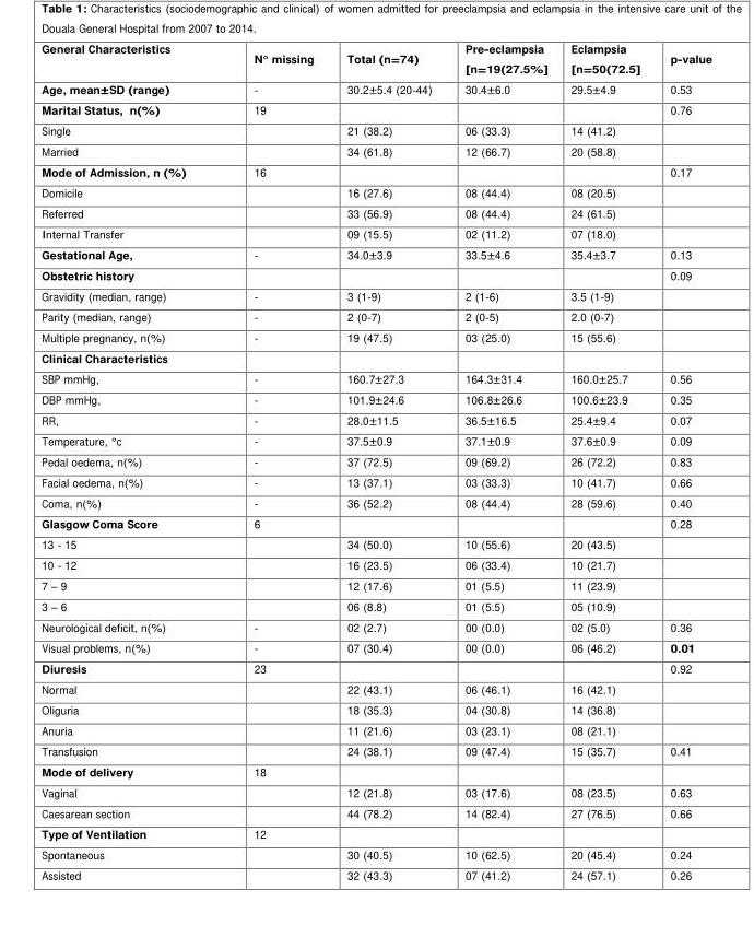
<table><thead><tr><td>General Characteristics</td><td>N° missing</td><td>Total (n=74)</td><td>Pre-eclampsia [n=19(27.5%]</td><td>Eclampsia [n=50(72.5]</td><td>p-value</td></tr></thead><tbody><tr><td>Age, mean±SD (range)</td><td>-</td><td>30.2±5.4 (20-44)</td><td>30.4±6.0</td><td>29.5±4.9</td><td>0.53</td></tr><tr><td>Marital Status, n(%)</td><td>19</td><td></td><td></td><td></td><td>0.76</td></tr><tr><td>Single</td><td></td><td>21 (38.2)</td><td>06 (33.3)</td><td>14 (41.2)</td><td></td></tr><tr><td>Married</td><td></td><td>34 (61.8)</td><td>12 (66.7)</td><td>20 (58.8)</td><td></td></tr><tr><td>Mode of Admission, n (%)</td><td>16</td><td></td><td></td><td></td><td>0.17</td></tr><tr><td>Domicile</td><td></td><td>16 (27.6)</td><td>08 (44.4)</td><td>08 (20.5)</td><td></td></tr><tr><td>Referred</td><td></td><td>33 (56.9)</td><td>08 (44.4)</td><td>24 (61.5)</td><td></td></tr><tr><td>Internal Transfer</td><td></td><td>09 (15.5)</td><td>02 (11.2)</td><td>07 (18.0)</td><td></td></tr><tr><td>Gestational Age,</td><td>-</td><td>34.0±3.9</td><td>33.5±4.6</td><td>35.4±3.7</td><td>0.13</td></tr><tr><td>Obstetric history</td><td></td><td></td><td></td><td></td><td>0.09</td></tr><tr><td>Gravidity (median, range)</td><td>-</td><td>3 (1-9)</td><td>2 (1-6)</td><td>3.5 (1-9)</td><td></td></tr><tr><td>Parity (median, range)</td><td>-</td><td>2 (0-7)</td><td>2 (0-5)</td><td>2.0 (0-7)</td><td></td></tr><tr><td>Multiple pregnancy, n(%)</td><td>-</td><td>19 (47.5)</td><td>03 (25.0)</td><td>15 (55.6)</td><td></td></tr><tr><td colspan="6">Clinical Characteristics</td></tr><tr><td>SBP mmHg,</td><td>-</td><td>160.7±27.3</td><td>164.3±31.4</td><td>160.0±25.7</td><td>0.56</td></tr><tr><td>DBP mmHg,</td><td>-</td><td>101.9±24.6</td><td>106.8±26.6</td><td>100.6±23.9</td><td>0.35</td></tr><tr><td>RR,</td><td>-</td><td>28.0±11.5</td><td>36.5±16.5</td><td>25.4±9.4</td><td>0.07</td></tr><tr><td>Temperature, °c</td><td>-</td><td>37.5±0.9</td><td>37.1±0.9</td><td>37.6±0.9</td><td>0.09</td></tr><tr><td>Pedal oedema, n(%)</td><td>-</td><td>37 (72.5)</td><td>09 (69.2)</td><td>26 (72.2)</td><td>0.83</td></tr><tr><td>Facial oedema, n(%)</td><td>-</td><td>13 (37.1)</td><td>03 (33.3)</td><td>10 (41.7)</td><td>0.66</td></tr><tr><td>Coma, n(%)</td><td>-</td><td>36 (52.2)</td><td>08 (44.4)</td><td>28 (59.6)</td><td>0.40</td></tr><tr><td>Glasgow Coma Score</td><td>6</td><td></td><td></td><td></td><td>0.28</td></tr><tr><td>13 - 15</td><td></td><td>34 (50.0)</td><td>10 (55.6)</td><td>20 (43.5)</td><td></td></tr><tr><td>10 - 12</td><td></td><td>16 (23.5)</td><td>06 (33.4)</td><td>10 (21.7)</td><td></td></tr><tr><td>7 – 9</td><td></td><td>12 (17.6)</td><td>01 (5.5)</td><td>11 (23.9)</td><td></td></tr><tr><td>3 – 6</td><td></td><td>06 (8.8)</td><td>01 (5.5)</td><td>05 (10.9)</td><td></td></tr><tr><td>Neurological deficit, n(%)</td><td>-</td><td>02 (2.7)</td><td>00 (0.0)</td><td>02 (5.0)</td><td>0.36</td></tr><tr><td>Visual problems, n(%)</td><td>-</td><td>07 (30.4)</td><td>00 (0.0)</td><td>06 (46.2)</td><td>0.01</td></tr><tr><td>Diuresis</td><td>23</td><td></td><td></td><td></td><td>0.92</td></tr><tr><td>Normal</td><td></td><td>22 (43.1)</td><td>06 (46.1)</td><td>16 (42.1)</td><td></td></tr><tr><td>Oliguria</td><td></td><td>18 (35.3)</td><td>04 (30.8)</td><td>14 (36.8)</td><td></td></tr><tr><td>Anuria</td><td></td><td>11 (21.6)</td><td>03 (23.1)</td><td>08 (21.1)</td><td></td></tr><tr><td>Transfusion</td><td></td><td>24 (38.1)</td><td>09 (47.4)</td><td>15 (35.7)</td><td>0.41</td></tr><tr><td>Mode of delivery</td><td>18</td><td></td><td></td><td></td><td></td></tr><tr><td>Vaginal</td><td></td><td>12 (21.8)</td><td>03 (17.6)</td><td>08 (23.5)</td><td>0.63</td></tr><tr><td>Caesarean section</td><td></td><td>44 (78.2)</td><td>14 (82.4)</td><td>27 (76.5)</td><td>0.66</td></tr><tr><td>Type of Ventilation</td><td>12</td><td></td><td></td><td></td><td></td></tr><tr><td>Spontaneous</td><td></td><td>30 (40.5)</td><td>10 (62.5)</td><td>20 (45.4)</td><td>0.24</td></tr><tr><td>Assisted</td><td></td><td>32 (43.3)</td><td>07 (41.2)</td><td>24 (57.1)</td><td>0.26</td></tr></tbody></table>